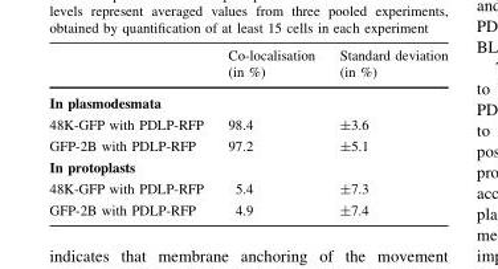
<table><thead><tr><td></td><td>Co-localisation (in %)</td><td>Standard deviation (in %)</td></tr></thead><tbody><tr><td colspan="3">In plasmodesmata</td></tr><tr><td>48K-GFP with PDLP-RFP</td><td>98.4</td><td>±3.6</td></tr><tr><td>GFP-2B with PDLP-RFP</td><td>97.2</td><td>±5.1</td></tr><tr><td colspan="3">In protoplasts</td></tr><tr><td>48K-GFP with PDLP-RFP</td><td>5.4</td><td>±7.3</td></tr><tr><td>GFP-2B with PDLP-RFP</td><td>4.9</td><td>±7.4</td></tr></tbody></table>